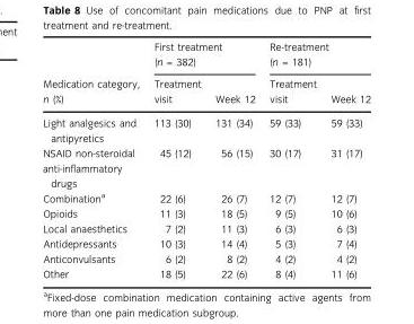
<table><thead><tr><td rowspan="2">Medication category, n (%)</td><td colspan="2">First treatment (n = 382)</td><td colspan="2">Re-treatment (n = 181)</td></tr><tr><td>Treatment visit</td><td>Week 12</td><td>Treatment visit</td><td>Week 12</td></tr></thead><tbody><tr><td>Light analgesics and antipyretics</td><td>113 (30)</td><td>131 (34)</td><td>59 (33)</td><td>59 (33)</td></tr><tr><td>NSAID non-steroidal anti-inflammatory drugs</td><td>45 (12)</td><td>56 (15)</td><td>30 (17)</td><td>31 (17)</td></tr><tr><td>Combination<sup>a</sup></td><td>22 (6)</td><td>26 (7)</td><td>12 (7)</td><td>12 (7)</td></tr><tr><td>Opioids</td><td>11 (3)</td><td>18 (5)</td><td>9 (5)</td><td>10 (6)</td></tr><tr><td>Local anaesthetics</td><td>7 (2)</td><td>11 (3)</td><td>6 (3)</td><td>6 (3)</td></tr><tr><td>Antidepressants</td><td>10 (3)</td><td>14 (4)</td><td>5 (3)</td><td>7 (4)</td></tr><tr><td>Anticonvulsants</td><td>6 (2)</td><td>8 (2)</td><td>4 (2)</td><td>4 (2)</td></tr><tr><td>Other</td><td>18 (5)</td><td>22 (6)</td><td>8 (4)</td><td>11 (6)</td></tr></tbody></table>